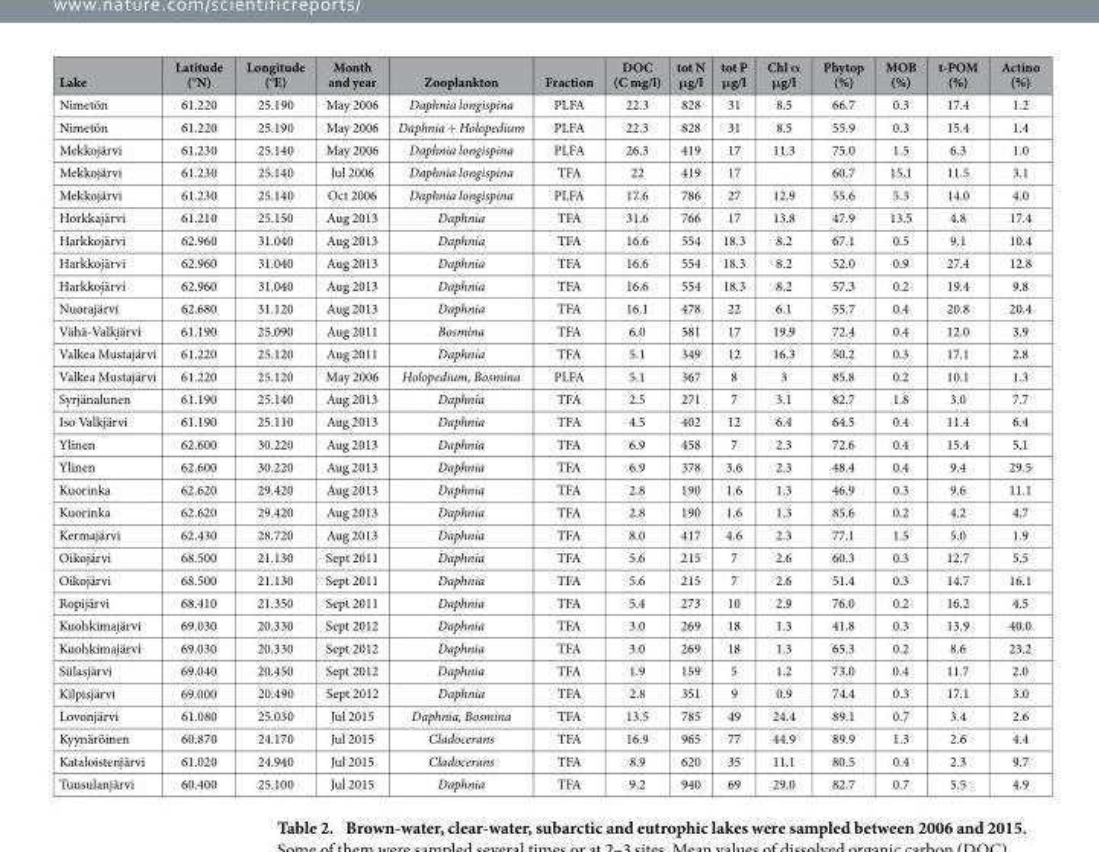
<table><thead><tr><td>Lake</td><td>Latitude (°N)</td><td>Longitude (°E)</td><td>Month and year</td><td>Zooplankton</td><td>Fraction</td><td>DOC (C mg/l)</td><td>tot N μg/l</td><td>tot P μg/l</td><td>Chl α μg/l</td><td>Phytop (%)</td><td>MOB (%)</td><td>t-POM (%)</td><td>Actino (%)</td></tr></thead><tbody><tr><td>Nimetön</td><td>61.220</td><td>25.190</td><td>May 2006</td><td>Daphnia longispina</td><td>PLFA</td><td>22.3</td><td>828</td><td>31</td><td>8.5</td><td>66.7</td><td>0.3</td><td>17.4</td><td>1.2</td></tr><tr><td>Nimetön</td><td>61.220</td><td>25.190</td><td>May 2006</td><td>Daphnia + Holopedium</td><td>PLFA</td><td>22.3</td><td>828</td><td>31</td><td>8.5</td><td>55.9</td><td>0.3</td><td>15.4</td><td>1.4</td></tr><tr><td>Mekkojärvi</td><td>61.230</td><td>25.140</td><td>May 2006</td><td>Daphnia longispina</td><td>PLFA</td><td>26.3</td><td>419</td><td>17</td><td>11.3</td><td>75.0</td><td>1.5</td><td>6.3</td><td>1.0</td></tr><tr><td>Mekkojärvi</td><td>61.230</td><td>25.140</td><td>Jul 2006</td><td>Daphnia longispina</td><td>TFA</td><td>22</td><td>419</td><td>17</td><td></td><td>60.7</td><td>15.1</td><td>11.5</td><td>3.1</td></tr><tr><td>Mekkojärvi</td><td>61.230</td><td>25.140</td><td>Oct 2006</td><td>Daphnia longispina</td><td>PLFA</td><td>17.6</td><td>786</td><td>27</td><td>12.9</td><td>55.6</td><td>5.3</td><td>14.0</td><td>4.0</td></tr><tr><td>Horkkajärvi</td><td>61.210</td><td>25.150</td><td>Aug 2013</td><td>Daphnia</td><td>TFA</td><td>31.6</td><td>766</td><td>17</td><td>13.8</td><td>47.9</td><td>13.5</td><td>4.8</td><td>17.4</td></tr><tr><td>Harkkojärvi</td><td>62.960</td><td>31.040</td><td>Aug 2013</td><td>Daphnia</td><td>TFA</td><td>16.6</td><td>554</td><td>18.3</td><td>8.2</td><td>67.1</td><td>0.5</td><td>9.1</td><td>10.4</td></tr><tr><td>Harkkojärvi</td><td>62.960</td><td>31.040</td><td>Aug 2013</td><td>Daphnia</td><td>TFA</td><td>16.6</td><td>554</td><td>18.3</td><td>8.2</td><td>52.0</td><td>0.9</td><td>27.4</td><td>12.8</td></tr><tr><td>Harkkojärvi</td><td>62.960</td><td>31.040</td><td>Aug 2013</td><td>Daphnia</td><td>TFA</td><td>16.6</td><td>554</td><td>18.3</td><td>8.2</td><td>57.3</td><td>0.2</td><td>19.4</td><td>9.8</td></tr><tr><td>Nuorajärvi</td><td>62.680</td><td>31.120</td><td>Aug 2013</td><td>Daphnia</td><td>TFA</td><td>16.1</td><td>478</td><td>22</td><td>6.1</td><td>55.7</td><td>0.4</td><td>20.8</td><td>20.4</td></tr><tr><td>Vähä-Valkjärvi</td><td>61.190</td><td>25.090</td><td>Aug 2011</td><td>Bosmina</td><td>TFA</td><td>6.0</td><td>581</td><td>17</td><td>19.9</td><td>72.4</td><td>0.4</td><td>12.0</td><td>3.9</td></tr><tr><td>Valkea Mustajärvi</td><td>61.220</td><td>25.120</td><td>Aug 2011</td><td>Daphnia</td><td>TFA</td><td>5.1</td><td>349</td><td>12</td><td>16.3</td><td>50.2</td><td>0.3</td><td>17.1</td><td>2.8</td></tr><tr><td>Valkea Mustajärvi</td><td>61.220</td><td>25.120</td><td>May 2006</td><td>Holopedium, Bosmina</td><td>PLFA</td><td>5.1</td><td>367</td><td>8</td><td>3</td><td>85.8</td><td>0.2</td><td>10.1</td><td>1.3</td></tr><tr><td>Syrjänalunen</td><td>61.190</td><td>25.140</td><td>Aug 2013</td><td>Daphnia</td><td>TFA</td><td>2.5</td><td>271</td><td>7</td><td>3.1</td><td>82.7</td><td>1.8</td><td>3.0</td><td>7.7</td></tr><tr><td>Iso Valkjärvi</td><td>61.190</td><td>25.110</td><td>Aug 2013</td><td>Daphnia</td><td>TFA</td><td>4.5</td><td>402</td><td>12</td><td>6.4</td><td>64.5</td><td>0.4</td><td>11.4</td><td>6.4</td></tr><tr><td>Ylinen</td><td>62.600</td><td>30.220</td><td>Aug 2013</td><td>Daphnia</td><td>TFA</td><td>6.9</td><td>458</td><td>7</td><td>2.3</td><td>72.6</td><td>0.4</td><td>15.4</td><td>5.1</td></tr><tr><td>Ylinen</td><td>62.600</td><td>30.220</td><td>Aug 2013</td><td>Daphnia</td><td>TFA</td><td>6.9</td><td>378</td><td>3.6</td><td>2.3</td><td>48.4</td><td>0.4</td><td>9.4</td><td>29.5</td></tr><tr><td>Kuorinka</td><td>62.620</td><td>29.420</td><td>Aug 2013</td><td>Daphnia</td><td>TFA</td><td>2.8</td><td>190</td><td>1.6</td><td>1.3</td><td>46.9</td><td>0.3</td><td>9.6</td><td>11.1</td></tr><tr><td>Kuorinka</td><td>62.620</td><td>29.420</td><td>Aug 2013</td><td>Daphnia</td><td>TFA</td><td>2.8</td><td>190</td><td>1.6</td><td>1.3</td><td>85.6</td><td>0.2</td><td>4.2</td><td>4.7</td></tr><tr><td>Kermajärvi</td><td>62.430</td><td>28.720</td><td>Aug 2013</td><td>Daphnia</td><td>TFA</td><td>8.0</td><td>417</td><td>4.6</td><td>2.3</td><td>77.1</td><td>1.5</td><td>5.0</td><td>1.9</td></tr><tr><td>Oikojärvi</td><td>68.500</td><td>21.130</td><td>Sept 2011</td><td>Daphnia</td><td>TFA</td><td>5.6</td><td>215</td><td>7</td><td>2.6</td><td>60.3</td><td>0.3</td><td>12.7</td><td>5.5</td></tr><tr><td>Oikojärvi</td><td>68.500</td><td>21.130</td><td>Sept 2011</td><td>Daphnia</td><td>TFA</td><td>5.6</td><td>215</td><td>7</td><td>2.6</td><td>51.4</td><td>0.3</td><td>14.7</td><td>16.1</td></tr><tr><td>Ropijärvi</td><td>68.410</td><td>21.350</td><td>Sept 2011</td><td>Daphnia</td><td>TFA</td><td>5.4</td><td>273</td><td>10</td><td>2.9</td><td>76.0</td><td>0.2</td><td>16.2</td><td>4.5</td></tr><tr><td>Kuohkimajärvi</td><td>69.030</td><td>20.330</td><td>Sept 2012</td><td>Daphnia</td><td>TFA</td><td>3.0</td><td>269</td><td>18</td><td>1.3</td><td>41.8</td><td>0.3</td><td>13.9</td><td>40.0</td></tr><tr><td>Kuohkimajärvi</td><td>69.030</td><td>20.330</td><td>Sept 2012</td><td>Daphnia</td><td>TFA</td><td>3.0</td><td>269</td><td>18</td><td>1.3</td><td>65.3</td><td>0.2</td><td>8.6</td><td>23.2</td></tr><tr><td>Siilasjärvi</td><td>69.040</td><td>20.450</td><td>Sept 2012</td><td>Daphnia</td><td>TFA</td><td>1.9</td><td>159</td><td>5</td><td>1.2</td><td>73.0</td><td>0.4</td><td>11.7</td><td>2.0</td></tr><tr><td>Kilpisjärvi</td><td>69.000</td><td>20.490</td><td>Sept 2012</td><td>Daphnia</td><td>TFA</td><td>2.8</td><td>351</td><td>9</td><td>0.9</td><td>74.4</td><td>0.3</td><td>17.1</td><td>3.0</td></tr><tr><td>Lovonjärvi</td><td>61.080</td><td>25.030</td><td>Jul 2015</td><td>Daphnia, Bosmina</td><td>TFA</td><td>13.5</td><td>785</td><td>49</td><td>24.4</td><td>89.1</td><td>0.7</td><td>3.4</td><td>2.6</td></tr><tr><td>Kyynäröinen</td><td>60.870</td><td>24.170</td><td>Jul 2015</td><td>Cladocerans</td><td>TFA</td><td>16.9</td><td>965</td><td>77</td><td>44.9</td><td>89.9</td><td>1.3</td><td>2.6</td><td>4.4</td></tr><tr><td>Kataloistenjärvi</td><td>61.020</td><td>24.940</td><td>Jul 2015</td><td>Cladocerans</td><td>TFA</td><td>8.9</td><td>620</td><td>35</td><td>11.1</td><td>80.5</td><td>0.4</td><td>2.3</td><td>9.7</td></tr><tr><td>Tuusulanjärvi</td><td>60.400</td><td>25.100</td><td>Jul 2015</td><td>Daphnia</td><td>TFA</td><td>9.2</td><td>940</td><td>69</td><td>29.0</td><td>82.7</td><td>0.7</td><td>5.5</td><td>4.9</td></tr></tbody></table>